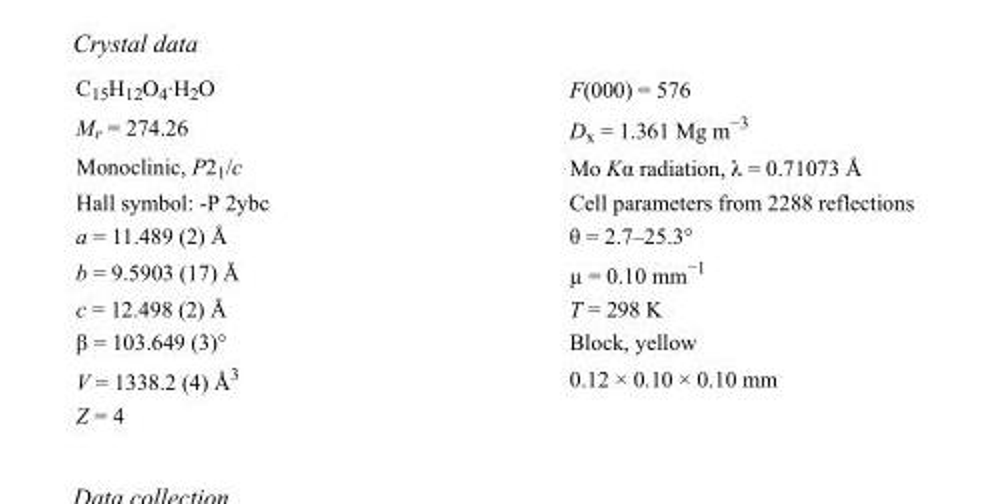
<table><tbody><tr><td>C<sub>15</sub>H<sub>12</sub>O<sub>4</sub>·H<sub>2</sub>O</td><td>F(000) = 576</td></tr><tr><td>M<sub>r</sub> = 274.26</td><td>D<sub>x</sub> = 1.361 Mg m<sup>−3</sup></td></tr><tr><td>Monoclinic, P2<sub>1</sub>/c</td><td>Mo Kα radiation, λ = 0.71073 Å</td></tr><tr><td>Hall symbol: -P 2ybc</td><td>Cell parameters from 2288 reflections</td></tr><tr><td>a = 11.489 (2) Å</td><td>θ = 2.7–25.3°</td></tr><tr><td>b = 9.5903 (17) Å</td><td>µ = 0.10 mm<sup>−1</sup></td></tr><tr><td>c = 12.498 (2) Å</td><td>T = 298 K</td></tr><tr><td>β = 103.649 (3)°</td><td>Block, yellow</td></tr><tr><td>V = 1338.2 (4) Å<sup>3</sup></td><td>0.12 × 0.10 × 0.10 mm</td></tr><tr><td>Z = 4</td><td></td></tr></tbody></table>